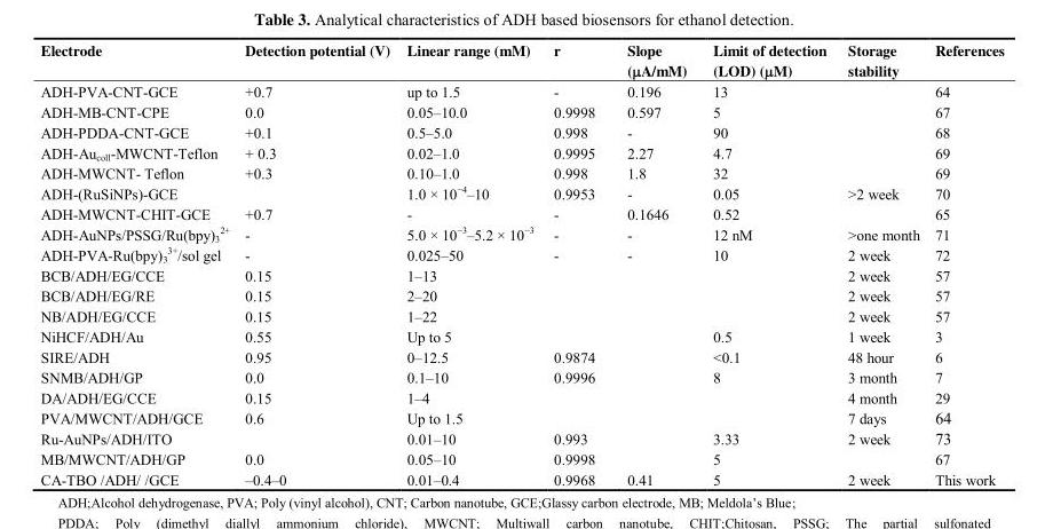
<table><thead><tr><td>Electrode</td><td>Detection potential (V)</td><td>Linear range (mM)</td><td>r</td><td>Slope (μA/mM)</td><td>Limit of detection (LOD) (μM)</td><td>Storage stability</td><td>References</td></tr></thead><tbody><tr><td>ADH-PVA-CNT-GCE</td><td>+0.7</td><td>up to 1.5</td><td>-</td><td>0.196</td><td>13</td><td></td><td>64</td></tr><tr><td>ADH-MB-CNT-CPE</td><td>0.0</td><td>0.05–10.0</td><td>0.9998</td><td>0.597</td><td>5</td><td></td><td>67</td></tr><tr><td>ADH-PDDA-CNT-GCE</td><td>+0.1</td><td>0.5–5.0</td><td>0.998</td><td>-</td><td>90</td><td></td><td>68</td></tr><tr><td>ADH-Au<sub>coll</sub>-MWCNT-Teflon</td><td>+ 0.3</td><td>0.02–1.0</td><td>0.9995</td><td>2.27</td><td>4.7</td><td></td><td>69</td></tr><tr><td>ADH-MWCNT- Teflon</td><td>+0.3</td><td>0.10–1.0</td><td>0.998</td><td>1.8</td><td>32</td><td></td><td>69</td></tr><tr><td>ADH-(RuSiNPs)-GCE</td><td></td><td>1.0 × 10<sup>−4</sup>–10</td><td>0.9953</td><td>-</td><td>0.05</td><td>&gt;2 week</td><td>70</td></tr><tr><td>ADH-MWCNT-CHIT-GCE</td><td>+0.7</td><td>-</td><td>-</td><td>0.1646</td><td>0.52</td><td></td><td>65</td></tr><tr><td>ADH-AuNPs/PSSG/Ru(bpy)<sub>3</sub> <sup>2+</sup></td><td>-</td><td>5.0 × 10<sup>−3</sup>–5.2 × 10<sup>−3</sup></td><td>-</td><td>-</td><td>12 nM</td><td>&gt;one month</td><td>71</td></tr><tr><td>ADH-PVA-Ru(bpy)<sub>3</sub> <sup>3+</sup>/sol gel</td><td>-</td><td>0.025–50</td><td>-</td><td>-</td><td>10</td><td>2 week</td><td>72</td></tr><tr><td>BCB/ADH/EG/CCE</td><td>0.15</td><td>1–13</td><td></td><td></td><td></td><td>2 week</td><td>57</td></tr><tr><td>BCB/ADH/EG/RE</td><td>0.15</td><td>2–20</td><td></td><td></td><td></td><td>2 week</td><td>57</td></tr><tr><td>NB/ADH/EG/CCE</td><td>0.15</td><td>1–22</td><td></td><td></td><td></td><td>2 week</td><td>57</td></tr><tr><td>NiHCF/ADH/Au</td><td>0.55</td><td>Up to 5</td><td></td><td></td><td>0.5</td><td>1 week</td><td>3</td></tr><tr><td>SIRE/ADH</td><td>0.95</td><td>0–12.5</td><td>0.9874</td><td></td><td>&lt;0.1</td><td>48 hour</td><td>6</td></tr><tr><td>SNMB/ADH/GP</td><td>0.0</td><td>0.1–10</td><td>0.9996</td><td></td><td>8</td><td>3 month</td><td>7</td></tr><tr><td>DA/ADH/EG/CCE</td><td>0.15</td><td>1–4</td><td></td><td></td><td></td><td>4 month</td><td>29</td></tr><tr><td>PVA/MWCNT/ADH/GCE</td><td>0.6</td><td>Up to 1.5</td><td></td><td></td><td></td><td>7 days</td><td>64</td></tr><tr><td>Ru-AuNPs/ADH/ITO</td><td></td><td>0.01–10</td><td>0.993</td><td></td><td>3.33</td><td>2 week</td><td>73</td></tr><tr><td>MB/MWCNT/ADH/GP</td><td>0.0</td><td>0.05–10</td><td>0.9998</td><td></td><td>5</td><td></td><td>67</td></tr><tr><td>CA-TBO /ADH/ /GCE</td><td>–0.4–0</td><td>0.01–0.4</td><td>0.9968</td><td>0.41</td><td>5</td><td>2 week</td><td>This work</td></tr></tbody></table>